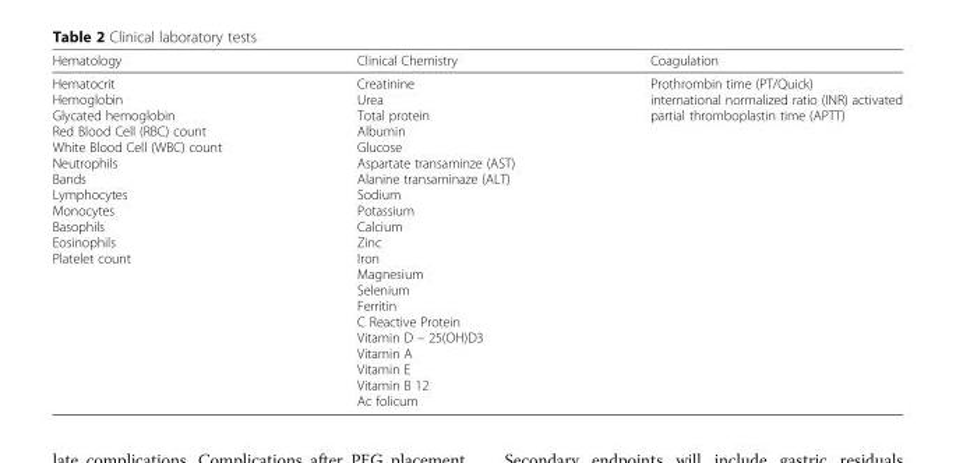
<table><thead><tr><td>Hematology</td><td>Clinical Chemistry</td><td>Coagulation</td></tr></thead><tbody><tr><td>Hematocrit Hemoglobin Glycated hemoglobin Red Blood Cell (RBC) count White Blood Cell (WBC) count Neutrophils Bands Lymphocytes Monocytes Basophils Eosinophils Platelet count</td><td>Creatinine Urea Total protein Albumin Glucose Aspartate transaminze (AST) Alanine transaminaze (ALT) Sodium Potassium Calcium Zinc Iron Magnesium Selenium Ferritin C Reactive Protein Vitamin D – 25(OH)D3 Vitamin A Vitamin E Vitamin B 12 Ac folicum</td><td>Prothrombin time (PT/Quick) international normalized ratio (INR) activated partial thromboplastin time (APTT)</td></tr></tbody></table>